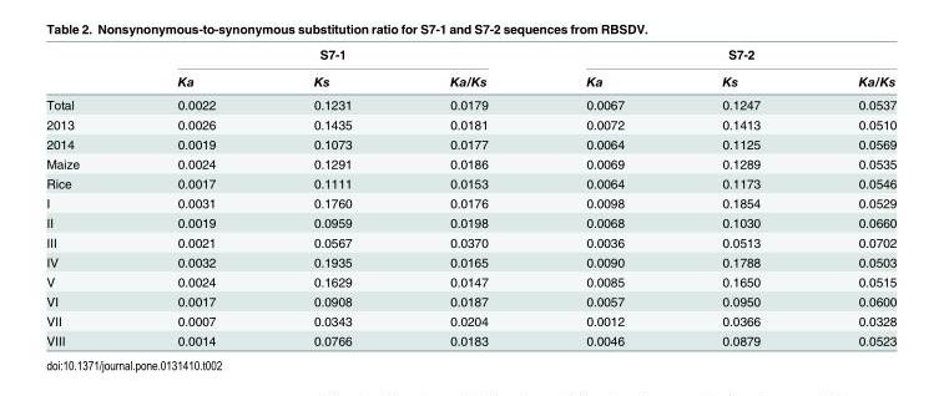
<table><thead><tr><td rowspan="2"></td><td colspan="3">S7-1</td><td colspan="3">S7-2</td></tr><tr><td>Ka</td><td>Ks</td><td>Ka/Ks</td><td>Ka</td><td>Ks</td><td>Ka/Ks</td></tr></thead><tbody><tr><td>Total</td><td>0.0022</td><td>0.1231</td><td>0.0179</td><td>0.0067</td><td>0.1247</td><td>0.0537</td></tr><tr><td>2013</td><td>0.0026</td><td>0.1435</td><td>0.0181</td><td>0.0072</td><td>0.1413</td><td>0.0510</td></tr><tr><td>2014</td><td>0.0019</td><td>0.1073</td><td>0.0177</td><td>0.0064</td><td>0.1125</td><td>0.0569</td></tr><tr><td>Maize</td><td>0.0024</td><td>0.1291</td><td>0.0186</td><td>0.0069</td><td>0.1289</td><td>0.0535</td></tr><tr><td>Rice</td><td>0.0017</td><td>0.1111</td><td>0.0153</td><td>0.0064</td><td>0.1173</td><td>0.0546</td></tr><tr><td>I</td><td>0.0031</td><td>0.1760</td><td>0.0176</td><td>0.0098</td><td>0.1854</td><td>0.0529</td></tr><tr><td>II</td><td>0.0019</td><td>0.0959</td><td>0.0198</td><td>0.0068</td><td>0.1030</td><td>0.0660</td></tr><tr><td>III</td><td>0.0021</td><td>0.0567</td><td>0.0370</td><td>0.0036</td><td>0.0513</td><td>0.0702</td></tr><tr><td>IV</td><td>0.0032</td><td>0.1935</td><td>0.0165</td><td>0.0090</td><td>0.1788</td><td>0.0503</td></tr><tr><td>V</td><td>0.0024</td><td>0.1629</td><td>0.0147</td><td>0.0085</td><td>0.1650</td><td>0.0515</td></tr><tr><td>VI</td><td>0.0017</td><td>0.0908</td><td>0.0187</td><td>0.0057</td><td>0.0950</td><td>0.0600</td></tr><tr><td>VII</td><td>0.0007</td><td>0.0343</td><td>0.0204</td><td>0.0012</td><td>0.0366</td><td>0.0328</td></tr><tr><td>VIII</td><td>0.0014</td><td>0.0766</td><td>0.0183</td><td>0.0046</td><td>0.0879</td><td>0.0523</td></tr></tbody></table>